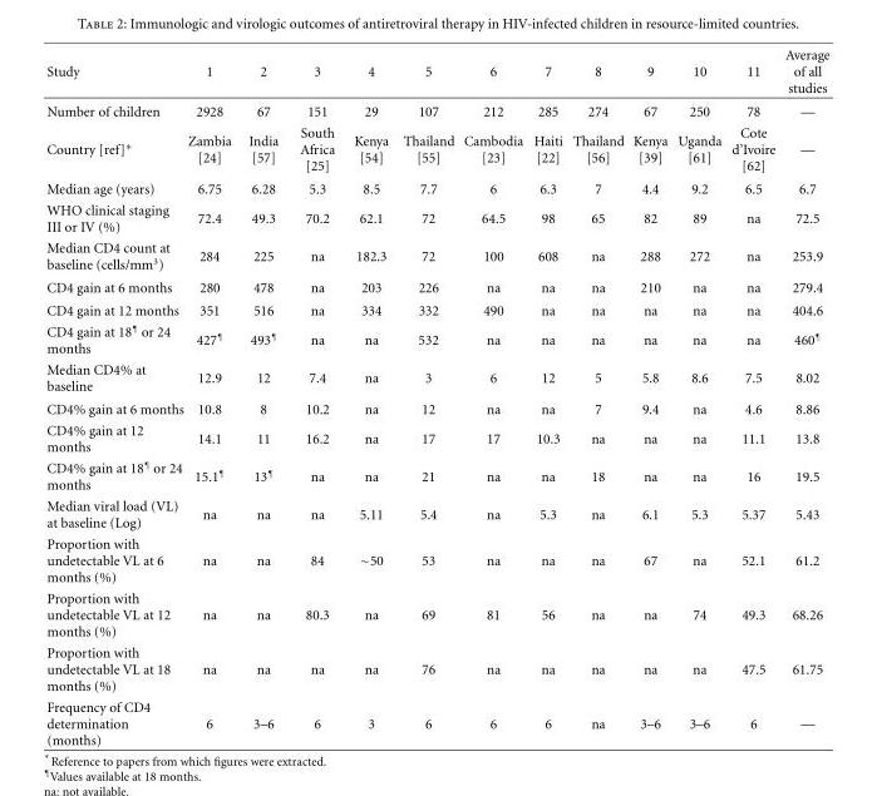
<table><thead><tr><td>Study</td><td>1</td><td>2</td><td>3</td><td>4</td><td>5</td><td>6</td><td>7</td><td>8</td><td>9</td><td>10</td><td>11</td><td>Average of all studies</td></tr></thead><tbody><tr><td>Number of children</td><td>2928</td><td>67</td><td>151</td><td>29</td><td>107</td><td>212</td><td>285</td><td>274</td><td>67</td><td>250</td><td>78</td><td>—</td></tr><tr><td>Country [ref]∗</td><td>Zambia [24]</td><td>India [57]</td><td>South Africa [25]</td><td>Kenya [54]</td><td>Thailand [55]</td><td>Cambodia [23]</td><td>Haiti [22]</td><td>Thailand [56]</td><td>Kenya [39]</td><td>Uganda [61]</td><td>Cote d’Ivoire [62]</td><td>—</td></tr><tr><td>Median age (years)</td><td>6.75</td><td>6.28</td><td>5.3</td><td>8.5</td><td>7.7</td><td>6</td><td>6.3</td><td>7</td><td>4.4</td><td>9.2</td><td>6.5</td><td>6.7</td></tr><tr><td>WHO clinical staging III or IV (%)</td><td>72.4</td><td>49.3</td><td>70.2</td><td>62.1</td><td>72</td><td>64.5</td><td>98</td><td>65</td><td>82</td><td>89</td><td>na</td><td>72.5</td></tr><tr><td>Median CD4 count at baseline (cells/mm<sup>3</sup>)</td><td>284</td><td>225</td><td>na</td><td>182.3</td><td>72</td><td>100</td><td>608</td><td>na</td><td>288</td><td>272</td><td>na</td><td>253.9</td></tr><tr><td>CD4 gain at 6 months</td><td>280</td><td>478</td><td>na</td><td>203</td><td>226</td><td>na</td><td>na</td><td>na</td><td>210</td><td>na</td><td>na</td><td>279.4</td></tr><tr><td>CD4 gain at 12 months</td><td>351</td><td>516</td><td>na</td><td>334</td><td>332</td><td>490</td><td>na</td><td>na</td><td>na</td><td>na</td><td>na</td><td>404.6</td></tr><tr><td>CD4 gain at 18<sup>¶</sup> or 24 months</td><td>427<sup>¶</sup></td><td>493<sup>¶</sup></td><td>na</td><td>na</td><td>532</td><td>na</td><td>na</td><td>na</td><td>na</td><td>na</td><td>na</td><td>460<sup>¶</sup></td></tr><tr><td>Median CD4% at baseline</td><td>12.9</td><td>12</td><td>7.4</td><td>na</td><td>3</td><td>6</td><td>12</td><td>5</td><td>5.8</td><td>8.6</td><td>7.5</td><td>8.02</td></tr><tr><td>CD4% gain at 6 months</td><td>10.8</td><td>8</td><td>10.2</td><td>na</td><td>12</td><td>na</td><td>na</td><td>7</td><td>9.4</td><td>na</td><td>4.6</td><td>8.86</td></tr><tr><td>CD4% gain at 12 months</td><td>14.1</td><td>11</td><td>16.2</td><td>na</td><td>17</td><td>17</td><td>10.3</td><td>na</td><td>na</td><td>na</td><td>11.1</td><td>13.8</td></tr><tr><td>CD4% gain at 18<sup>¶</sup> or 24 months</td><td>15.1<sup>¶</sup></td><td>13<sup>¶</sup></td><td>na</td><td>na</td><td>21</td><td>na</td><td>na</td><td>18</td><td>na</td><td>na</td><td>16</td><td>19.5</td></tr><tr><td>Median viral load (VL) at baseline (Log)</td><td>na</td><td>na</td><td>na</td><td>5.11</td><td>5.4</td><td>na</td><td>5.3</td><td>na</td><td>6.1</td><td>5.3</td><td>5.37</td><td>5.43</td></tr><tr><td>Proportion with undetectable VL at 6 months (%)</td><td>na</td><td>na</td><td>84</td><td>∼50</td><td>53</td><td>na</td><td>na</td><td>na</td><td>67</td><td>na</td><td>52.1</td><td>61.2</td></tr><tr><td>Proportion with undetectable VL at 12 months (%)</td><td>na</td><td>na</td><td>80.3</td><td>na</td><td>69</td><td>81</td><td>56</td><td>na</td><td>na</td><td>74</td><td>49.3</td><td>68.26</td></tr><tr><td>Proportion with undetectable VL at 18 months (%)</td><td>na</td><td>na</td><td>na</td><td>na</td><td>76</td><td>na</td><td>na</td><td>na</td><td>na</td><td>na</td><td>47.5</td><td>61.75</td></tr><tr><td>Frequency of CD4 determination (months)</td><td>6</td><td>3–6</td><td>6</td><td>3</td><td>6</td><td>6</td><td>6</td><td>na</td><td>3–6</td><td>3–6</td><td>6</td><td>—</td></tr></tbody></table>